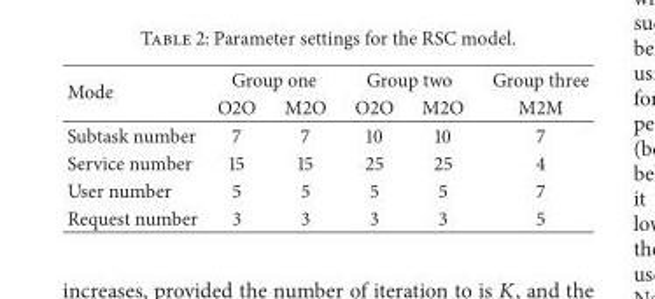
<table><thead><tr><td rowspan="2">Mode</td><td colspan="2">Group one</td><td colspan="2">Group two</td><td rowspan="2">Group three M2M</td></tr><tr><td>O2O</td><td>M2O</td><td>O2O</td><td>M2O</td></tr></thead><tbody><tr><td>Subtask number</td><td>7</td><td>7</td><td>10</td><td>10</td><td>7</td></tr><tr><td>Service number</td><td>15</td><td>15</td><td>25</td><td>25</td><td>4</td></tr><tr><td>User number</td><td>5</td><td>5</td><td>5</td><td>5</td><td>7</td></tr><tr><td>Request number</td><td>3</td><td>3</td><td>3</td><td>3</td><td>5</td></tr></tbody></table>